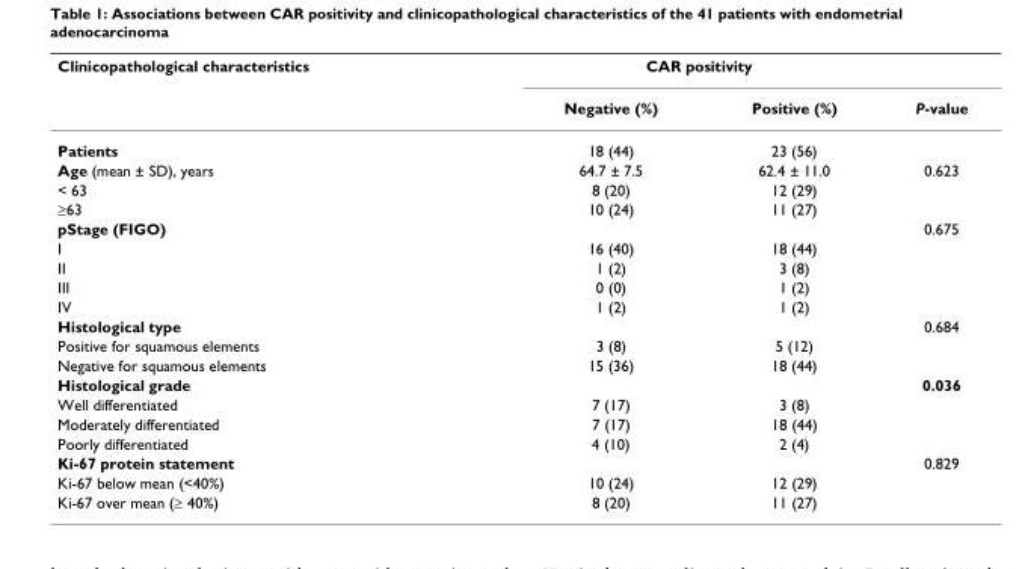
<table><thead><tr><td rowspan="2">Clinicopathological characteristics</td><td colspan="2">CAR positivity</td><td rowspan="2">P-value</td></tr><tr><td>Negative (%)</td><td>Positive (%)</td></tr></thead><tbody><tr><td>Patients</td><td>18 (44)</td><td>23 (56)</td><td></td></tr><tr><td>Age (mean ± SD), years</td><td>64.7 ± 7.5</td><td>62.4 ± 11.0</td><td>0.623</td></tr><tr><td>&lt; 63</td><td>8 (20)</td><td>12 (29)</td><td></td></tr><tr><td>≥63</td><td>10 (24)</td><td>11 (27)</td><td></td></tr><tr><td>pStage (FIGO)</td><td></td><td></td><td>0.675</td></tr><tr><td>I</td><td>16 (40)</td><td>18 (44)</td><td></td></tr><tr><td>II</td><td>1 (2)</td><td>3 (8)</td><td></td></tr><tr><td>III</td><td>0 (0)</td><td>1 (2)</td><td></td></tr><tr><td>IV</td><td>1 (2)</td><td>1 (2)</td><td></td></tr><tr><td>Histological type</td><td></td><td></td><td>0.684</td></tr><tr><td>Positive for squamous elements</td><td>3 (8)</td><td>5 (12)</td><td></td></tr><tr><td>Negative for squamous elements</td><td>15 (36)</td><td>18 (44)</td><td></td></tr><tr><td>Histological grade</td><td></td><td></td><td>0.036</td></tr><tr><td>Well differentiated</td><td>7 (17)</td><td>3 (8)</td><td></td></tr><tr><td>Moderately differentiated</td><td>7 (17)</td><td>18 (44)</td><td></td></tr><tr><td>Poorly differentiated</td><td>4 (10)</td><td>2 (4)</td><td></td></tr><tr><td>Ki-67 protein statement</td><td></td><td></td><td>0.829</td></tr><tr><td>Ki-67 below mean (&lt;40%)</td><td>10 (24)</td><td>12 (29)</td><td></td></tr><tr><td>Ki-67 over mean (≥ 40%)</td><td>8 (20)</td><td>11 (27)</td><td></td></tr></tbody></table>